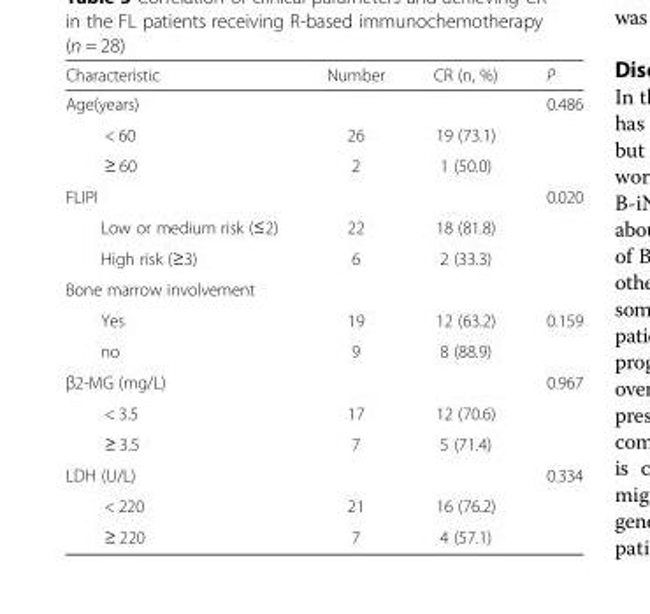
<table><thead><tr><td>Characteristic</td><td>Number</td><td>CR (n, %)</td><td>P</td></tr></thead><tbody><tr><td>Age(years)</td><td></td><td></td><td>0.486</td></tr><tr><td>&lt; 60</td><td>26</td><td>19 (73.1)</td><td></td></tr><tr><td>≥ 60</td><td>2</td><td>1 (50.0)</td><td></td></tr><tr><td>FLIPI</td><td></td><td></td><td>0.020</td></tr><tr><td>Low or medium risk (≤2)</td><td>22</td><td>18 (81.8)</td><td></td></tr><tr><td>High risk (≥3)</td><td>6</td><td>2 (33.3)</td><td></td></tr><tr><td colspan="4">Bone marrow involvement</td></tr><tr><td>Yes</td><td>19</td><td>12 (63.2)</td><td>0.159</td></tr><tr><td>no</td><td>9</td><td>8 (88.9)</td><td></td></tr><tr><td>β2-MG (mg/L)</td><td></td><td></td><td>0.967</td></tr><tr><td>&lt; 3.5</td><td>17</td><td>12 (70.6)</td><td></td></tr><tr><td>≥ 3.5</td><td>7</td><td>5 (71.4)</td><td></td></tr><tr><td>LDH (U/L)</td><td></td><td></td><td>0.334</td></tr><tr><td>&lt; 220</td><td>21</td><td>16 (76.2)</td><td></td></tr><tr><td>≥ 220</td><td>7</td><td>4 (57.1)</td><td></td></tr></tbody></table>